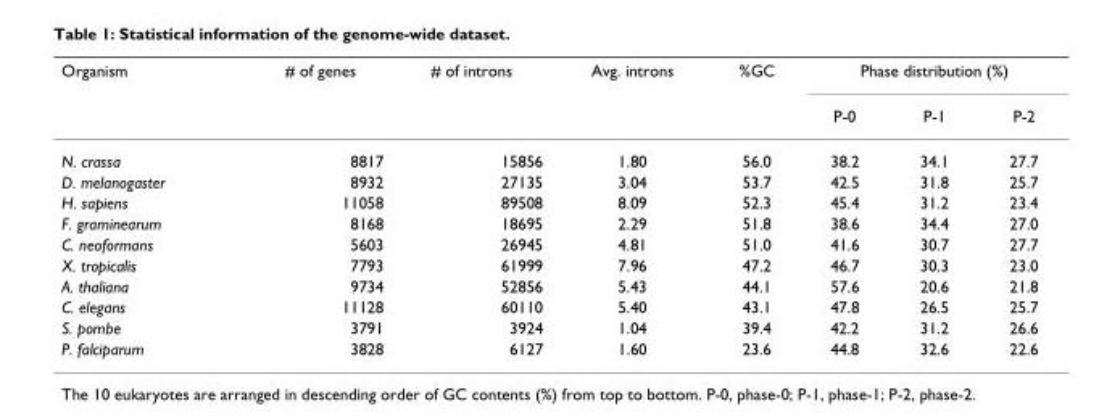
<table><thead><tr><td rowspan="2">Organism</td><td rowspan="2"># of genes</td><td rowspan="2"># of introns</td><td rowspan="2">Avg. introns</td><td rowspan="2">%GC</td><td colspan="3">Phase distribution (%)</td></tr><tr><td>P-0</td><td>P-1</td><td>P-2</td></tr></thead><tbody><tr><td>N. crassa</td><td>8817</td><td>15856</td><td>1.80</td><td>56.0</td><td>38.2</td><td>34.1</td><td>27.7</td></tr><tr><td>D. melanogaster</td><td>8932</td><td>27135</td><td>3.04</td><td>53.7</td><td>42.5</td><td>31.8</td><td>25.7</td></tr><tr><td>H. sapiens</td><td>11058</td><td>89508</td><td>8.09</td><td>52.3</td><td>45.4</td><td>31.2</td><td>23.4</td></tr><tr><td>F. graminearum</td><td>8168</td><td>18695</td><td>2.29</td><td>51.8</td><td>38.6</td><td>34.4</td><td>27.0</td></tr><tr><td>C. neoformans</td><td>5603</td><td>26945</td><td>4.81</td><td>51.0</td><td>41.6</td><td>30.7</td><td>27.7</td></tr><tr><td>X. tropicalis</td><td>7793</td><td>61999</td><td>7.96</td><td>47.2</td><td>46.7</td><td>30.3</td><td>23.0</td></tr><tr><td>A. thaliana</td><td>9734</td><td>52856</td><td>5.43</td><td>44.1</td><td>57.6</td><td>20.6</td><td>21.8</td></tr><tr><td>C. elegans</td><td>11128</td><td>60110</td><td>5.40</td><td>43.1</td><td>47.8</td><td>26.5</td><td>25.7</td></tr><tr><td>S. pombe</td><td>3791</td><td>3924</td><td>1.04</td><td>39.4</td><td>42.2</td><td>31.2</td><td>26.6</td></tr><tr><td>P. falciparum</td><td>3828</td><td>6127</td><td>1.60</td><td>23.6</td><td>44.8</td><td>32.6</td><td>22.6</td></tr></tbody></table>